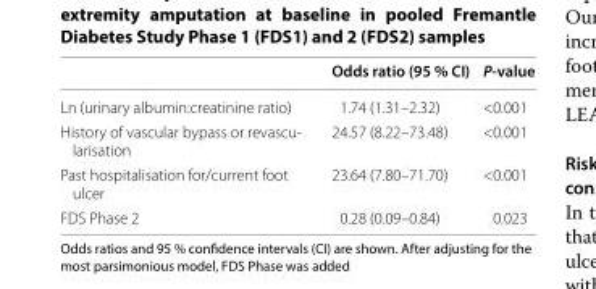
<table><thead><tr><td></td><td>Odds ratio (95 % CI)</td><td>P-value</td></tr></thead><tbody><tr><td>Ln (urinary albumin:creatinine ratio)</td><td>1.74 (1.31–2.32)</td><td>&lt;0.001</td></tr><tr><td>History of vascular bypass or revascu- larisation</td><td>24.57 (8.22–73.48)</td><td>&lt;0.001</td></tr><tr><td>Past hospitalisation for/current foot ulcer</td><td>23.64 (7.80–71.70)</td><td>&lt;0.001</td></tr><tr><td>FDS Phase 2</td><td>0.28 (0.09–0.84)</td><td>0.023</td></tr></tbody></table>